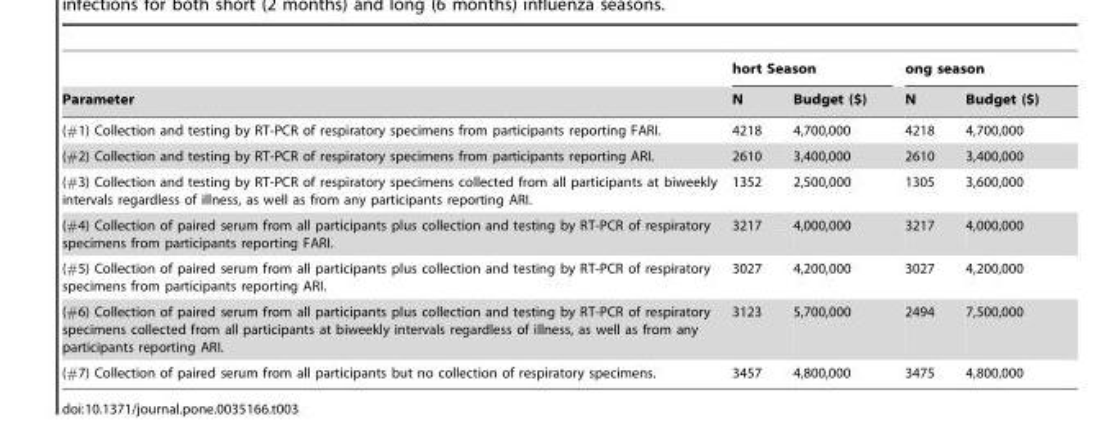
<table><thead><tr><td rowspan="2">Parameter</td><td colspan="2">hort Season</td><td colspan="2">ong season</td></tr><tr><td>N</td><td>Budget ($)</td><td>N</td><td>Budget ($)</td></tr></thead><tbody><tr><td>(#1) Collection and testing by RT-PCR of respiratory specimens from participants reporting FARI.</td><td>4218</td><td>4,700,000</td><td>4218</td><td>4,700,000</td></tr><tr><td>(#2) Collection and testing by RT-PCR of respiratory specimens from participants reporting ARI.</td><td>2610</td><td>3,400,000</td><td>2610</td><td>3,400,000</td></tr><tr><td>(#3) Collection and testing by RT-PCR of respiratory specimens collected from all participants at biweekly intervals regardless of illness, as well as from any participants reporting ARI.</td><td>1352</td><td>2,500,000</td><td>1305</td><td>3,600,000</td></tr><tr><td>(#4) Collection of paired serum from all participants plus collection and testing by RT-PCR of respiratory specimens from participants reporting FARI.</td><td>3217</td><td>4,000,000</td><td>3217</td><td>4,000,000</td></tr><tr><td>(#5) Collection of paired serum from all participants plus collection and testing by RT-PCR of respiratory specimens from participants reporting ARI.</td><td>3027</td><td>4,200,000</td><td>3027</td><td>4,200,000</td></tr><tr><td>(#6) Collection of paired serum from all participants plus collection and testing by RT-PCR of respiratory specimens collected from all participants at biweekly intervals regardless of illness, as well as from any participants reporting ARI.</td><td>3123</td><td>5,700,000</td><td>2494</td><td>7,500,000</td></tr><tr><td>(#7) Collection of paired serum from all participants but no collection of respiratory specimens.</td><td>3457</td><td>4,800,000</td><td>3475</td><td>4,800,000</td></tr></tbody></table>